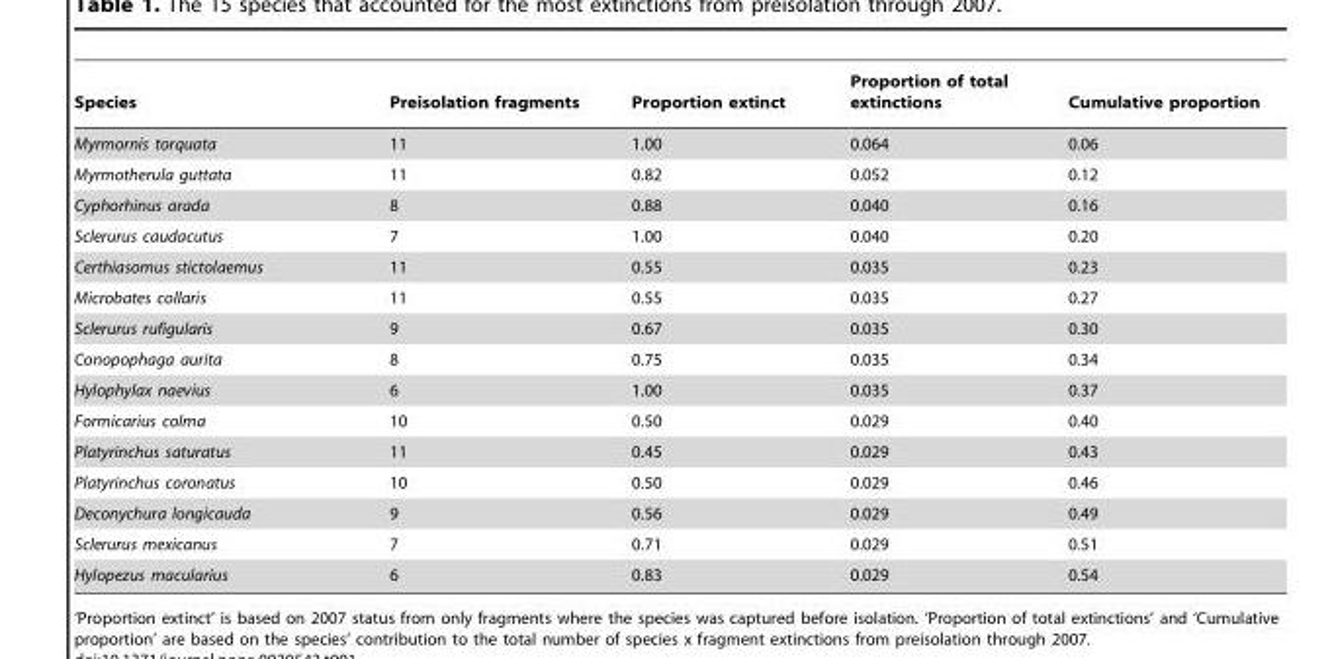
<table><thead><tr><td>Species</td><td>Preisolation fragments</td><td>Proportion extinct</td><td>Proportion of total extinctions</td><td>Cumulative proportion</td></tr></thead><tbody><tr><td>Myrmornis torquata</td><td>11</td><td>1.00</td><td>0.064</td><td>0.06</td></tr><tr><td>Myrmotherula guttata</td><td>11</td><td>0.82</td><td>0.052</td><td>0.12</td></tr><tr><td>Cyphorhinus arada</td><td>8</td><td>0.88</td><td>0.040</td><td>0.16</td></tr><tr><td>Sclerurus caudacutus</td><td>7</td><td>1.00</td><td>0.040</td><td>0.20</td></tr><tr><td>Certhiasomus stictolaemus</td><td>11</td><td>0.55</td><td>0.035</td><td>0.23</td></tr><tr><td>Microbates collaris</td><td>11</td><td>0.55</td><td>0.035</td><td>0.27</td></tr><tr><td>Sclerurus rufigularis</td><td>9</td><td>0.67</td><td>0.035</td><td>0.30</td></tr><tr><td>Conopophaga aurita</td><td>8</td><td>0.75</td><td>0.035</td><td>0.34</td></tr><tr><td>Hylophylax naevius</td><td>6</td><td>1.00</td><td>0.035</td><td>0.37</td></tr><tr><td>Formicarius colma</td><td>10</td><td>0.50</td><td>0.029</td><td>0.40</td></tr><tr><td>Platyrinchus saturatus</td><td>11</td><td>0.45</td><td>0.029</td><td>0.43</td></tr><tr><td>Platyrinchus coronatus</td><td>10</td><td>0.50</td><td>0.029</td><td>0.46</td></tr><tr><td>Deconychura longicauda</td><td>9</td><td>0.56</td><td>0.029</td><td>0.49</td></tr><tr><td>Sclerurus mexicanus</td><td>7</td><td>0.71</td><td>0.029</td><td>0.51</td></tr><tr><td>Hylopezus macularius</td><td>6</td><td>0.83</td><td>0.029</td><td>0.54</td></tr></tbody></table>